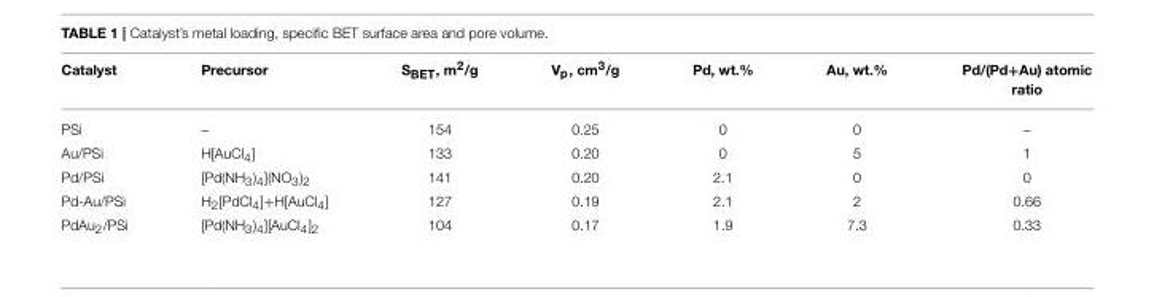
<table><thead><tr><td>Catalyst</td><td>Precursor</td><td>S<sub>BET</sub>, m<sup>2</sup>/g</td><td>V<sub>p</sub>, cm<sup>3</sup>/g</td><td>Pd, wt.%</td><td>Au, wt.%</td><td>Pd/(Pd+Au) atomic ratio</td></tr></thead><tbody><tr><td>PSi</td><td>–</td><td>154</td><td>0.25</td><td>0</td><td>0</td><td>–</td></tr><tr><td>Au/PSi</td><td>H[AuCl<sub>4</sub>]</td><td>133</td><td>0.20</td><td>0</td><td>5</td><td>1</td></tr><tr><td>Pd/PSi</td><td>[Pd(NH<sub>3</sub>)<sub>4</sub>](NO<sub>3</sub>)<sub>2</sub></td><td>141</td><td>0.20</td><td>2.1</td><td>0</td><td>0</td></tr><tr><td>Pd-Au/PSi</td><td>H<sub>2</sub>[PdCl<sub>4</sub>]+H[AuCl<sub>4</sub>]</td><td>127</td><td>0.19</td><td>2.1</td><td>2</td><td>0.66</td></tr><tr><td>PdAu<sub>2</sub>/PSi</td><td>[Pd(NH<sub>3</sub>)<sub>4</sub>][AuCl<sub>4</sub>]<sub>2</sub></td><td>104</td><td>0.17</td><td>1.9</td><td>7.3</td><td>0.33</td></tr></tbody></table>